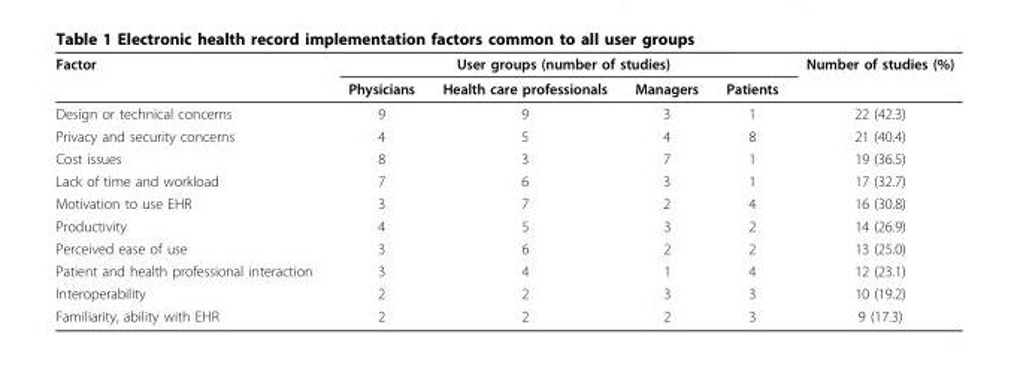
<table><thead><tr><td rowspan="2">Factor</td><td colspan="4">User groups (number of studies)</td><td rowspan="2">Number of studies (%)</td></tr><tr><td>Physicians</td><td>Health care professionals</td><td>Managers</td><td>Patients</td></tr></thead><tbody><tr><td>Design or technical concerns</td><td>9</td><td>9</td><td>3</td><td>1</td><td>22 (42.3)</td></tr><tr><td>Privacy and security concerns</td><td>4</td><td>5</td><td>4</td><td>8</td><td>21 (40.4)</td></tr><tr><td>Cost issues</td><td>8</td><td>3</td><td>7</td><td>1</td><td>19 (36.5)</td></tr><tr><td>Lack of time and workload</td><td>7</td><td>6</td><td>3</td><td>1</td><td>17 (32.7)</td></tr><tr><td>Motivation to use EHR</td><td>3</td><td>7</td><td>2</td><td>4</td><td>16 (30.8)</td></tr><tr><td>Productivity</td><td>4</td><td>5</td><td>3</td><td>2</td><td>14 (26.9)</td></tr><tr><td>Perceived ease of use</td><td>3</td><td>6</td><td>2</td><td>2</td><td>13 (25.0)</td></tr><tr><td>Patient and health professional interaction</td><td>3</td><td>4</td><td>1</td><td>4</td><td>12 (23.1)</td></tr><tr><td>Interoperability</td><td>2</td><td>2</td><td>3</td><td>3</td><td>10 (19.2)</td></tr><tr><td>Familiarity, ability with EHR</td><td>2</td><td>2</td><td>2</td><td>3</td><td>9 (17.3)</td></tr></tbody></table>